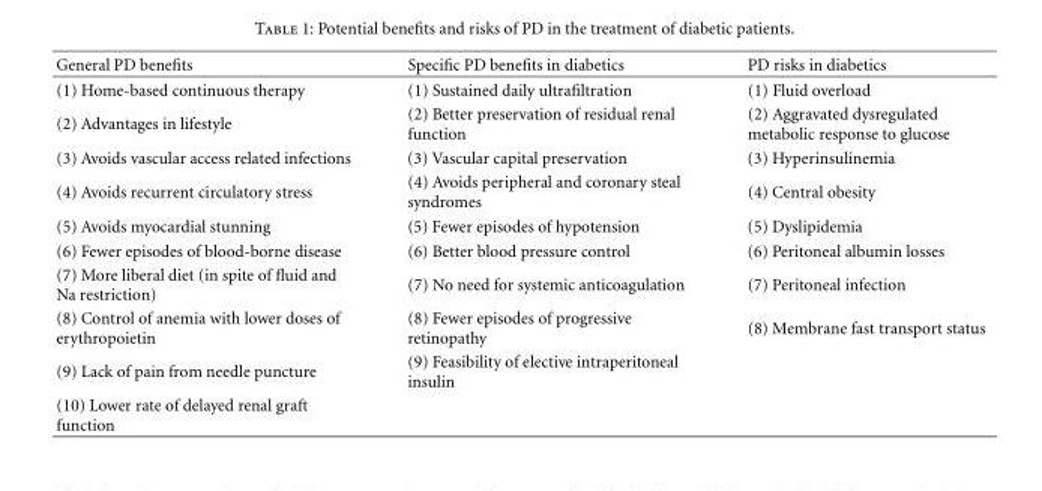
<table><thead><tr><td>General PD benefits</td><td>Specific PD benefits in diabetics</td><td>PD risks in diabetics</td></tr></thead><tbody><tr><td>(1) Home-based continuous therapy</td><td>(1) Sustained daily ultrafiltration</td><td>(1) Fluid overload</td></tr><tr><td>(2) Advantages in lifestyle</td><td>(2) Better preservation of residual renal function</td><td>(2) Aggravated dysregulated metabolic response to glucose</td></tr><tr><td>(3) Avoids vascular access related infections</td><td>(3) Vascular capital preservation</td><td>(3) Hyperinsulinemia</td></tr><tr><td>(4) Avoids recurrent circulatory stress</td><td>(4) Avoids peripheral and coronary steal syndromes</td><td>(4) Central obesity</td></tr><tr><td>(5) Avoids myocardial stunning</td><td>(5) Fewer episodes of hypotension</td><td>(5) Dyslipidemia</td></tr><tr><td>(6) Fewer episodes of blood-borne disease</td><td>(6) Better blood pressure control</td><td>(6) Peritoneal albumin losses</td></tr><tr><td>(7) More liberal diet (in spite of fluid and Na restriction)</td><td>(7) No need for systemic anticoagulation</td><td>(7) Peritoneal infection</td></tr><tr><td>(8) Control of anemia with lower doses of erythropoietin</td><td>(8) Fewer episodes of progressive retinopathy</td><td>(8) Membrane fast transport status</td></tr><tr><td>(9) Lack of pain from needle puncture</td><td>(9) Feasibility of elective intraperitoneal insulin</td><td></td></tr><tr><td>(10) Lower rate of delayed renal graft function</td><td></td><td></td></tr></tbody></table>